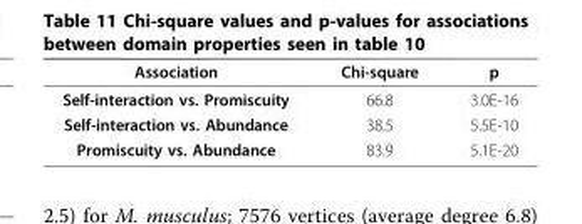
<table><thead><tr><td>Association</td><td>Chi-square</td><td>p</td></tr></thead><tbody><tr><td>Self-interaction vs. Promiscuity</td><td>66.8</td><td>3.0E-16</td></tr><tr><td>Self-interaction vs. Abundance</td><td>38.5</td><td>5.5E-10</td></tr><tr><td>Promiscuity vs. Abundance</td><td>83.9</td><td>5.1E-20</td></tr></tbody></table>